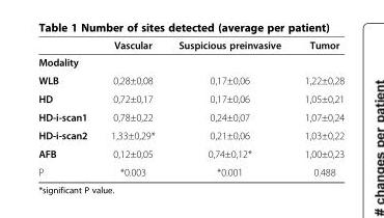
<table><thead><tr><td></td><td>Vascular</td><td>Suspicious preinvasive</td><td>Tumor</td></tr></thead><tbody><tr><td colspan="4">Modality</td></tr><tr><td>WLB</td><td>0,28±0,08</td><td>0,17±0,06</td><td>1,22±0,28</td></tr><tr><td>HD</td><td>0,72±0,17</td><td>0,17±0,06</td><td>1,05±0,21</td></tr><tr><td>HD-i-scan1</td><td>0,78±0,22</td><td>0,24±0,07</td><td>1,07±0,24</td></tr><tr><td>HD-i-scan2</td><td>1,33±0,29*</td><td>0,21±0,06</td><td>1,03±0,22</td></tr><tr><td>AFB</td><td>0,12±0,05</td><td>0,74±0,12*</td><td>1,00±0,23</td></tr><tr><td>P</td><td>*0.003</td><td>*0.001</td><td>0.488</td></tr></tbody></table>